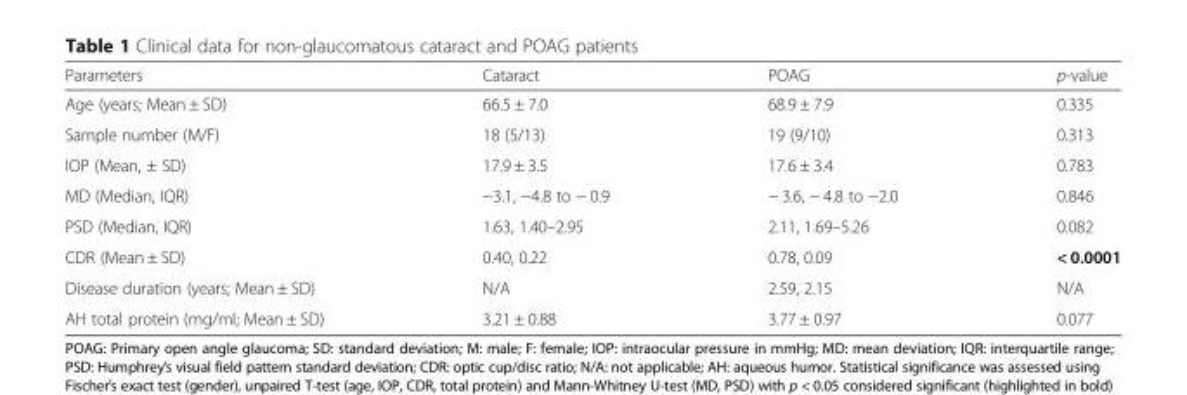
<table><thead><tr><td>Parameters</td><td>Cataract</td><td>POAG</td><td>p-value</td></tr></thead><tbody><tr><td>Age (years; Mean ± SD)</td><td>66.5 ± 7.0</td><td>68.9 ± 7.9</td><td>0.335</td></tr><tr><td>Sample number (M/F)</td><td>18 (5/13)</td><td>19 (9/10)</td><td>0.313</td></tr><tr><td>IOP (Mean, ± SD)</td><td>17.9 ± 3.5</td><td>17.6 ± 3.4</td><td>0.783</td></tr><tr><td>MD (Median, IQR)</td><td>−3.1, −4.8 to − 0.9</td><td>− 3.6, − 4.8 to −2.0</td><td>0.846</td></tr><tr><td>PSD (Median, IQR)</td><td>1.63, 1.40–2.95</td><td>2.11, 1.69–5.26</td><td>0.082</td></tr><tr><td>CDR (Mean ± SD)</td><td>0.40, 0.22</td><td>0.78, 0.09</td><td>&lt; 0.0001</td></tr><tr><td>Disease duration (years; Mean ± SD)</td><td>N/A</td><td>2.59, 2.15</td><td>N/A</td></tr><tr><td>AH total protein (mg/ml; Mean ± SD)</td><td>3.21 ± 0.88</td><td>3.77 ± 0.97</td><td>0.077</td></tr></tbody></table>